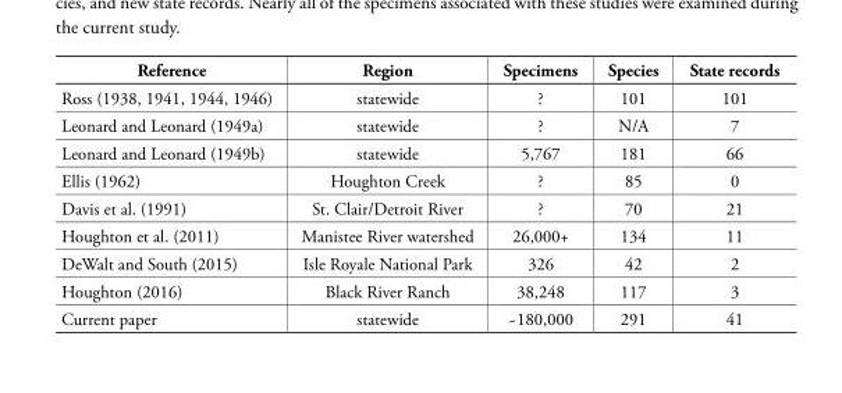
<table><thead><tr><td>Reference</td><td>Region</td><td>Specimens</td><td>Species</td><td>State records</td></tr></thead><tbody><tr><td>Ross (1938, 1941, 1944, 1946)</td><td>statewide</td><td>?</td><td>101</td><td>101</td></tr><tr><td>Leonard and Leonard (1949a)</td><td>statewide</td><td>?</td><td>N/A</td><td>7</td></tr><tr><td>Leonard and Leonard (1949b)</td><td>statewide</td><td>5,767</td><td>181</td><td>66</td></tr><tr><td>Ellis (1962)</td><td>Houghton Creek</td><td>?</td><td>85</td><td>0</td></tr><tr><td>Davis et al. (1991)</td><td>St. Clair/Detroit River</td><td>?</td><td>70</td><td>21</td></tr><tr><td>Houghton et al. (2011)</td><td>Manistee River watershed</td><td>26,000+</td><td>134</td><td>11</td></tr><tr><td>DeWalt and South (2015)</td><td>Isle Royale National Park</td><td>326</td><td>42</td><td>2</td></tr><tr><td>Houghton (2016)</td><td>Black River Ranch</td><td>38,248</td><td>117</td><td>3</td></tr><tr><td>Current paper</td><td>statewide</td><td>~180,000</td><td>291</td><td>41</td></tr></tbody></table>